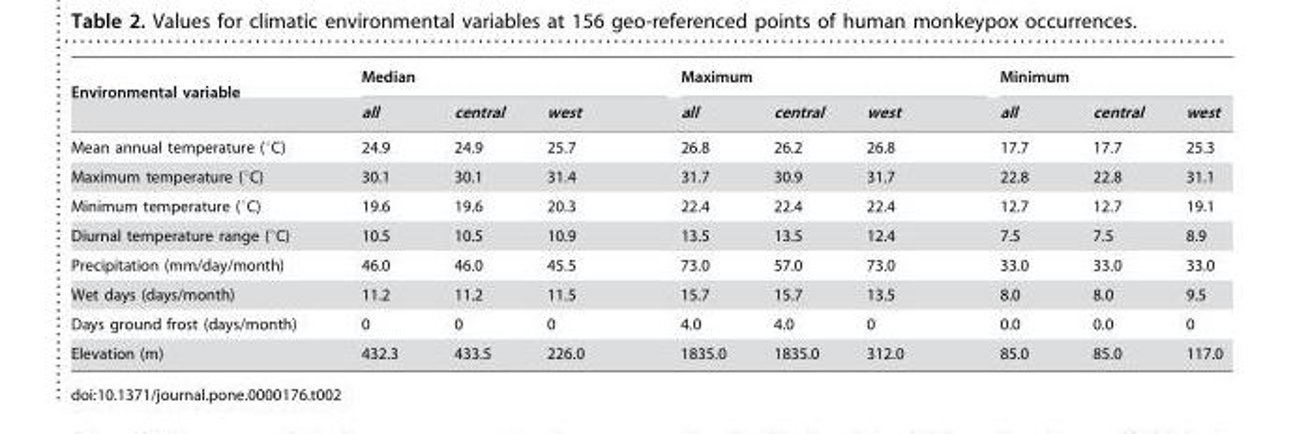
<table><thead><tr><td rowspan="2">Environmental variable</td><td colspan="3">Median</td><td colspan="3">Maximum</td><td colspan="3">Minimum</td></tr><tr><td>all</td><td>central</td><td>west</td><td>all</td><td>central</td><td>west</td><td>all</td><td>central</td><td>west</td></tr></thead><tbody><tr><td>Mean annual temperature (°C)</td><td>24.9</td><td>24.9</td><td>25.7</td><td>26.8</td><td>26.2</td><td>26.8</td><td>17.7</td><td>17.7</td><td>25.3</td></tr><tr><td>Maximum temperature (°C)</td><td>30.1</td><td>30.1</td><td>31.4</td><td>31.7</td><td>30.9</td><td>31.7</td><td>22.8</td><td>22.8</td><td>31.1</td></tr><tr><td>Minimum temperature (°C)</td><td>19.6</td><td>19.6</td><td>20.3</td><td>22.4</td><td>22.4</td><td>22.4</td><td>12.7</td><td>12.7</td><td>19.1</td></tr><tr><td>Diurnal temperature range (°C)</td><td>10.5</td><td>10.5</td><td>10.9</td><td>13.5</td><td>13.5</td><td>12.4</td><td>7.5</td><td>7.5</td><td>8.9</td></tr><tr><td>Precipitation (mm/day/month)</td><td>46.0</td><td>46.0</td><td>45.5</td><td>73.0</td><td>57.0</td><td>73.0</td><td>33.0</td><td>33.0</td><td>33.0</td></tr><tr><td>Wet days (days/month)</td><td>11.2</td><td>11.2</td><td>11.5</td><td>15.7</td><td>15.7</td><td>13.5</td><td>8.0</td><td>8.0</td><td>9.5</td></tr><tr><td>Days ground frost (days/month)</td><td>0</td><td>0</td><td>0</td><td>4.0</td><td>4.0</td><td>0</td><td>0.0</td><td>0.0</td><td>0</td></tr><tr><td>Elevation (m)</td><td>432.3</td><td>433.5</td><td>226.0</td><td>1835.0</td><td>1835.0</td><td>312.0</td><td>85.0</td><td>85.0</td><td>117.0</td></tr></tbody></table>